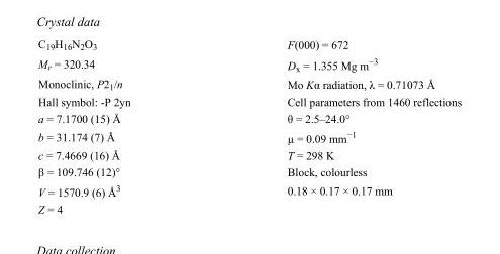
<table><tbody><tr><td>C<sub>19</sub>H<sub>16</sub>N<sub>2</sub>O<sub>3</sub></td><td>F(000) = 672</td></tr><tr><td>M<sub>r</sub> = 320.34</td><td>D<sub>x</sub> = 1.355 Mg m<sup>−3</sup></td></tr><tr><td>Monoclinic, P2<sub>1</sub>/n</td><td>Mo Kα radiation, λ = 0.71073 Å</td></tr><tr><td>Hall symbol: -P 2yn</td><td>Cell parameters from 1460 reflections</td></tr><tr><td>a = 7.1700 (15) Å</td><td>θ = 2.5–24.0°</td></tr><tr><td>b = 31.174 (7) Å</td><td>µ = 0.09 mm<sup>−1</sup></td></tr><tr><td>c = 7.4669 (16) Å</td><td>T = 298 K</td></tr><tr><td>β = 109.746 (12)°</td><td>Block, colourless</td></tr><tr><td>V = 1570.9 (6) Å<sup>3</sup></td><td>0.18 × 0.17 × 0.17 mm</td></tr><tr><td>Z = 4</td><td></td></tr></tbody></table>